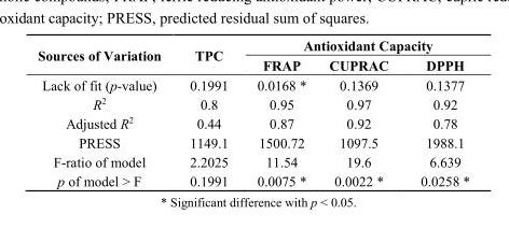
<table><thead><tr><td rowspan="2">Sources of Variation</td><td rowspan="2">TPC</td><td colspan="3">Antioxidant Capacity</td></tr><tr><td>FRAP</td><td>CUPRAC</td><td>DPPH</td></tr></thead><tbody><tr><td>Lack of fit (p-value)</td><td>0.1991</td><td>0.0168 *</td><td>0.1369</td><td>0.1377</td></tr><tr><td>R<sup>2</sup></td><td>0.8</td><td>0.95</td><td>0.97</td><td>0.92</td></tr><tr><td>Adjusted R<sup>2</sup></td><td>0.44</td><td>0.87</td><td>0.92</td><td>0.78</td></tr><tr><td>PRESS</td><td>1149.1</td><td>1500.72</td><td>1097.5</td><td>1988.1</td></tr><tr><td>F-ratio of model</td><td>2.2025</td><td>11.54</td><td>19.6</td><td>6.639</td></tr><tr><td>p of model &gt; F</td><td>0.1991</td><td>0.0075 *</td><td>0.0022 *</td><td>0.0258 *</td></tr></tbody></table>